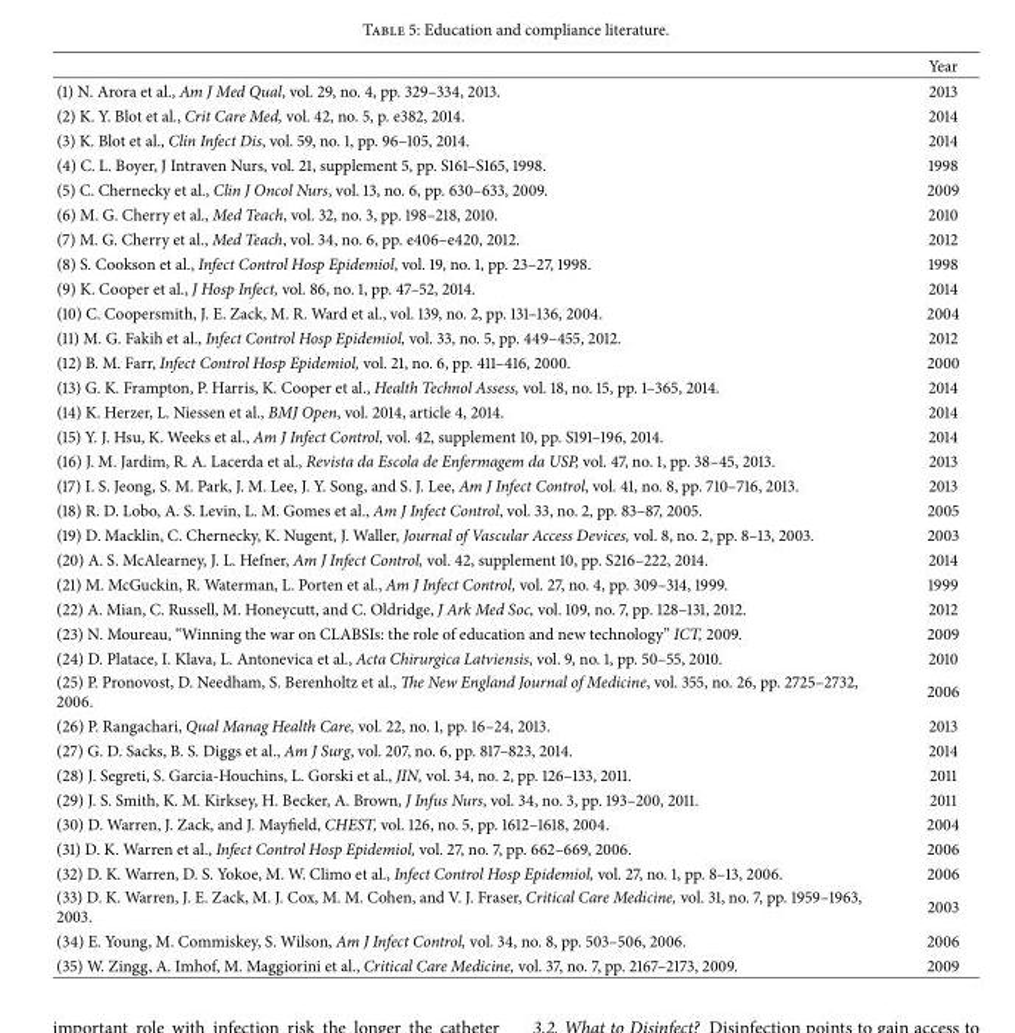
<table><thead><tr><td></td><td>Year</td></tr></thead><tbody><tr><td>(1) N. Arora et al., Am J Med Qual, vol. 29, no. 4, pp. 329–334, 2013.</td><td>2013</td></tr><tr><td>(2) K. Y. Blot et al., Crit Care Med, vol. 42, no. 5, p. e382, 2014.</td><td>2014</td></tr><tr><td>(3) K. Blot et al., Clin Infect Dis, vol. 59, no. 1, pp. 96–105, 2014.</td><td>2014</td></tr><tr><td>(4) C. L. Boyer, J Intraven Nurs, vol. 21, supplement 5, pp. S161–S165, 1998.</td><td>1998</td></tr><tr><td>(5) C. Chernecky et al., Clin J Oncol Nurs, vol. 13, no. 6, pp. 630–633, 2009.</td><td>2009</td></tr><tr><td>(6) M. G. Cherry et al., Med Teach, vol. 32, no. 3, pp. 198–218, 2010.</td><td>2010</td></tr><tr><td>(7) M. G. Cherry et al., Med Teach, vol. 34, no. 6, pp. e406–e420, 2012.</td><td>2012</td></tr><tr><td>(8) S. Cookson et al., Infect Control Hosp Epidemiol, vol. 19, no. 1, pp. 23–27, 1998.</td><td>1998</td></tr><tr><td>(9) K. Cooper et al., J Hosp Infect, vol. 86, no. 1, pp. 47–52, 2014.</td><td>2014</td></tr><tr><td>(10) C. Coopersmith, J. E. Zack, M. R. Ward et al., vol. 139, no. 2, pp. 131–136, 2004.</td><td>2004</td></tr><tr><td>(11) M. G. Fakih et al., Infect Control Hosp Epidemiol, vol. 33, no. 5, pp. 449–455, 2012.</td><td>2012</td></tr><tr><td>(12) B. M. Farr, Infect Control Hosp Epidemiol, vol. 21, no. 6, pp. 411–416, 2000.</td><td>2000</td></tr><tr><td>(13) G. K. Frampton, P. Harris, K. Cooper et al., Health Technol Assess, vol. 18, no. 15, pp. 1–365, 2014.</td><td>2014</td></tr><tr><td>(14) K. Herzer, L. Niessen et al., BMJ Open, vol. 2014, article 4, 2014.</td><td>2014</td></tr><tr><td>(15) Y. J. Hsu, K. Weeks et al., Am J Infect Control, vol. 42, supplement 10, pp. S191–196, 2014.</td><td>2014</td></tr><tr><td>(16) J. M. Jardim, R. A. Lacerda et al., Revista da Escola de Enfermagem da USP, vol. 47, no. 1, pp. 38–45, 2013.</td><td>2013</td></tr><tr><td>(17) I. S. Jeong, S. M. Park, J. M. Lee, J. Y. Song, and S. J. Lee, Am J Infect Control, vol. 41, no. 8, pp. 710–716, 2013.</td><td>2013</td></tr><tr><td>(18) R. D. Lobo, A. S. Levin, L. M. Gomes et al., Am J Infect Control, vol. 33, no. 2, pp. 83–87, 2005.</td><td>2005</td></tr><tr><td>(19) D. Macklin, C. Chernecky, K. Nugent, J. Waller, Journal of Vascular Access Devices, vol. 8, no. 2, pp. 8–13, 2003.</td><td>2003</td></tr><tr><td>(20) A. S. McAlearney, J. L. Hefner, Am J Infect Control, vol. 42, supplement 10, pp. S216–222, 2014.</td><td>2014</td></tr><tr><td>(21) M. McGuckin, R. Waterman, L. Porten et al., Am J Infect Control, vol. 27, no. 4, pp. 309–314, 1999.</td><td>1999</td></tr><tr><td>(22) A. Mian, C. Russell, M. Honeycutt, and C. Oldridge, J Ark Med Soc, vol. 109, no. 7, pp. 128–131, 2012.</td><td>2012</td></tr><tr><td>(23) N. Moureau, “Winning the war on CLABSIs: the role of education and new technology” ICT, 2009.</td><td>2009</td></tr><tr><td>(24) D. Platace, I. Klava, L. Antonevica et al., Acta Chirurgica Latviensis, vol. 9, no. 1, pp. 50–55, 2010.</td><td>2010</td></tr><tr><td>(25) P. Pronovost, D. Needham, S. Berenholtz et al., The New England Journal of Medicine, vol. 355, no. 26, pp. 2725–2732, 2006.</td><td>2006</td></tr><tr><td>(26) P. Rangachari, Qual Manag Health Care, vol. 22, no. 1, pp. 16–24, 2013.</td><td>2013</td></tr><tr><td>(27) G. D. Sacks, B. S. Diggs et al., Am J Surg, vol. 207, no. 6, pp. 817–823, 2014.</td><td>2014</td></tr><tr><td>(28) J. Segreti, S. Garcia-Houchins, L. Gorski et al., JIN, vol. 34, no. 2, pp. 126–133, 2011.</td><td>2011</td></tr><tr><td>(29) J. S. Smith, K. M. Kirksey, H. Becker, A. Brown, J Infus Nurs, vol. 34, no. 3, pp. 193–200, 2011.</td><td>2011</td></tr><tr><td>(30) D. Warren, J. Zack, and J. Mayfield, CHEST, vol. 126, no. 5, pp. 1612–1618, 2004.</td><td>2004</td></tr><tr><td>(31) D. K. Warren et al., Infect Control Hosp Epidemiol, vol. 27, no. 7, pp. 662–669, 2006.</td><td>2006</td></tr><tr><td>(32) D. K. Warren, D. S. Yokoe, M. W. Climo et al., Infect Control Hosp Epidemiol, vol. 27, no. 1, pp. 8–13, 2006.</td><td>2006</td></tr><tr><td>(33) D. K. Warren, J. E. Zack, M. J. Cox, M. M. Cohen, and V. J. Fraser, Critical Care Medicine, vol. 31, no. 7, pp. 1959–1963, 2003.</td><td>2003</td></tr><tr><td>(34) E. Young, M. Commiskey, S. Wilson, Am J Infect Control, vol. 34, no. 8, pp. 503–506, 2006.</td><td>2006</td></tr><tr><td>(35) W. Zingg, A. Imhof, M. Maggiorini et al., Critical Care Medicine, vol. 37, no. 7, pp. 2167–2173, 2009.</td><td>2009</td></tr></tbody></table>